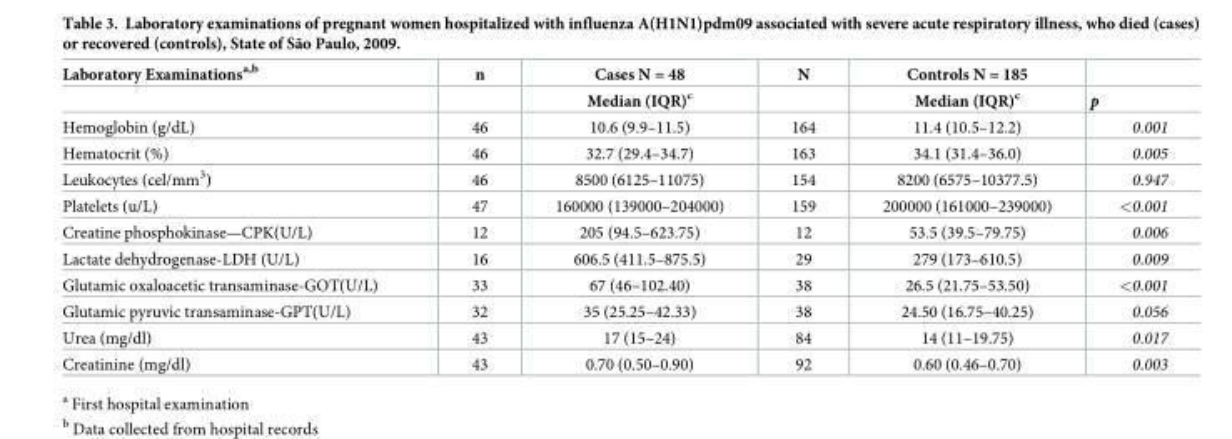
<table><thead><tr><td rowspan="2">Laboratory Examinations<sup>a,b</sup></td><td rowspan="2">n</td><td rowspan="2">Cases N = 48 Median (IQR)<sup>c</sup></td><td rowspan="2">N</td><td rowspan="2">Controls N = 185 Median (IQR)<sup>c</sup></td><td rowspan="2">p</td></tr><tr></tr></thead><tbody><tr><td>Hemoglobin (g/dL)</td><td>46</td><td>10.6 (9.9–11.5)</td><td>164</td><td>11.4 (10.5–12.2)</td><td>0.001</td></tr><tr><td>Hematocrit (%)</td><td>46</td><td>32.7 (29.4–34.7)</td><td>163</td><td>34.1 (31.4–36.0)</td><td>0.005</td></tr><tr><td>Leukocytes (cel/mm<sup>3</sup>)</td><td>46</td><td>8500 (6125–11075)</td><td>154</td><td>8200 (6575–10377.5)</td><td>0.947</td></tr><tr><td>Platelets (u/L)</td><td>47</td><td>160000 (139000–204000)</td><td>159</td><td>200000 (161000–239000)</td><td>&lt;0.001</td></tr><tr><td>Creatine phosphokinase—CPK(U/L)</td><td>12</td><td>205 (94.5–623.75)</td><td>12</td><td>53.5 (39.5–79.75)</td><td>0.006</td></tr><tr><td>Lactate dehydrogenase-LDH (U/L)</td><td>16</td><td>606.5 (411.5–875.5)</td><td>29</td><td>279 (173–610.5)</td><td>0.009</td></tr><tr><td>Glutamic oxaloacetic transaminase-GOT(U/L)</td><td>33</td><td>67 (46–102.40)</td><td>38</td><td>26.5 (21.75–53.50)</td><td>&lt;0.001</td></tr><tr><td>Glutamic pyruvic transaminase-GPT(U/L)</td><td>32</td><td>35 (25.25–42.33)</td><td>38</td><td>24.50 (16.75–40.25)</td><td>0.056</td></tr><tr><td>Urea (mg/dl)</td><td>43</td><td>17 (15–24)</td><td>84</td><td>14 (11–19.75)</td><td>0.017</td></tr><tr><td>Creatinine (mg/dl)</td><td>43</td><td>0.70 (0.50–0.90)</td><td>92</td><td>0.60 (0.46–0.70)</td><td>0.003</td></tr></tbody></table>